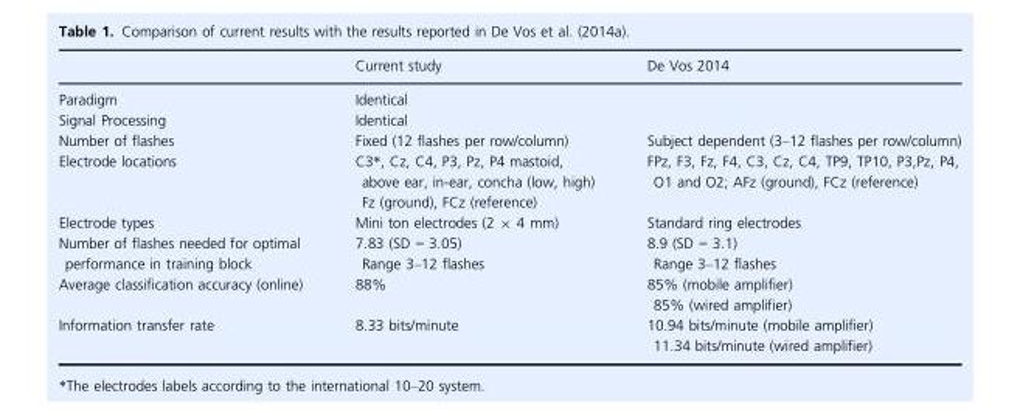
<table><thead><tr><td></td><td>Current study</td><td>De Vos 2014</td></tr></thead><tbody><tr><td>Paradigm</td><td colspan="2">Identical</td></tr><tr><td>Signal Processing</td><td colspan="2">Identical</td></tr><tr><td>Number of flashes</td><td>Fixed (12 flashes per row/column)</td><td>Subject dependent (3–12 flashes per row/column)</td></tr><tr><td>Electrode locations</td><td>C3*, Cz, C4, P3, Pz, P4 mastoid, above ear, in-ear, concha (low, high) Fz (ground), FCz (reference)</td><td>FPz, F3, Fz, F4, C3, Cz, C4, TP9, TP10, P3,Pz, P4, O1 and O2; AFz (ground), FCz (reference)</td></tr><tr><td>Electrode types</td><td>Mini ton electrodes (2 × 4 mm)</td><td>Standard ring electrodes</td></tr><tr><td>Number of flashes needed for optimal performance in training block</td><td>7.83 (SD = 3.05) Range 3–12 flashes</td><td>8.9 (SD = 3.1) Range 3–12 flashes</td></tr><tr><td>Average classification accuracy (online)</td><td>88%</td><td>85% (mobile amplifier) 85% (wired amplifier)</td></tr><tr><td>Information transfer rate</td><td>8.33 bits/minute</td><td>10.94 bits/minute (mobile amplifier) 11.34 bits/minute (wired amplifier)</td></tr></tbody></table>